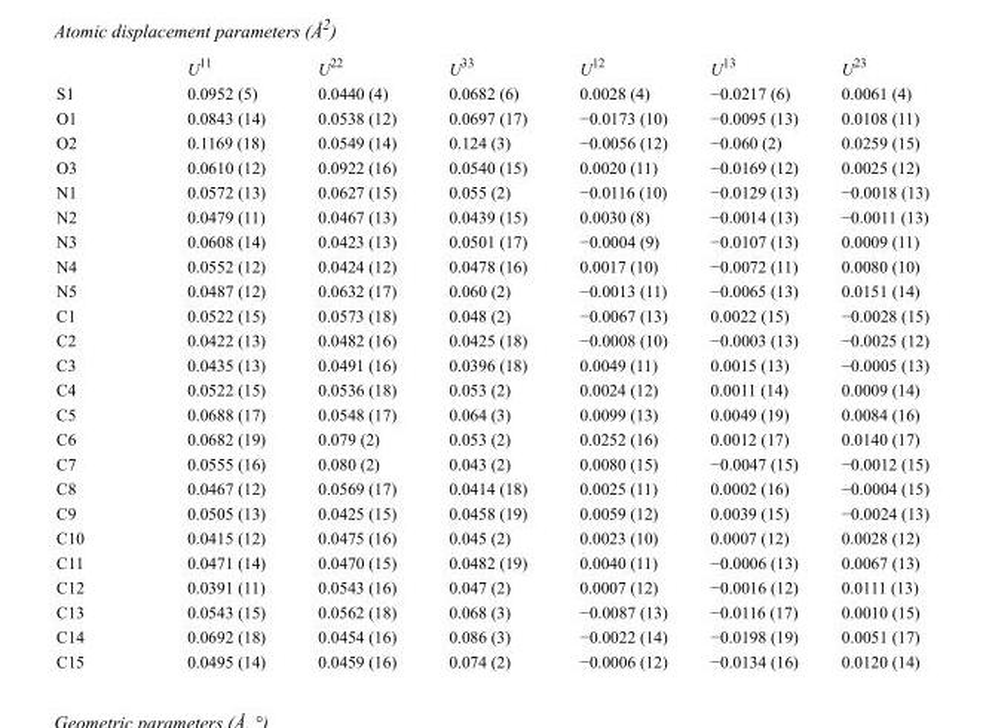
<table><thead><tr><td></td><td>U<sup>11</sup></td><td>U<sup>22</sup></td><td>U<sup>33</sup></td><td>U<sup>12</sup></td><td>U<sup>13</sup></td><td>U<sup>23</sup></td></tr></thead><tbody><tr><td>S1</td><td>0.0952 (5)</td><td>0.0440 (4)</td><td>0.0682 (6)</td><td>0.0028 (4)</td><td>−0.0217 (6)</td><td>0.0061 (4)</td></tr><tr><td>O1</td><td>0.0843 (14)</td><td>0.0538 (12)</td><td>0.0697 (17)</td><td>−0.0173 (10)</td><td>−0.0095 (13)</td><td>0.0108 (11)</td></tr><tr><td>O2</td><td>0.1169 (18)</td><td>0.0549 (14)</td><td>0.124 (3)</td><td>−0.0056 (12)</td><td>−0.060 (2)</td><td>0.0259 (15)</td></tr><tr><td>O3</td><td>0.0610 (12)</td><td>0.0922 (16)</td><td>0.0540 (15)</td><td>0.0020 (11)</td><td>−0.0169 (12)</td><td>0.0025 (12)</td></tr><tr><td>N1</td><td>0.0572 (13)</td><td>0.0627 (15)</td><td>0.055 (2)</td><td>−0.0116 (10)</td><td>−0.0129 (13)</td><td>−0.0018 (13)</td></tr><tr><td>N2</td><td>0.0479 (11)</td><td>0.0467 (13)</td><td>0.0439 (15)</td><td>0.0030 (8)</td><td>−0.0014 (13)</td><td>−0.0011 (13)</td></tr><tr><td>N3</td><td>0.0608 (14)</td><td>0.0423 (13)</td><td>0.0501 (17)</td><td>−0.0004 (9)</td><td>−0.0107 (13)</td><td>0.0009 (11)</td></tr><tr><td>N4</td><td>0.0552 (12)</td><td>0.0424 (12)</td><td>0.0478 (16)</td><td>0.0017 (10)</td><td>−0.0072 (11)</td><td>0.0080 (10)</td></tr><tr><td>N5</td><td>0.0487 (12)</td><td>0.0632 (17)</td><td>0.060 (2)</td><td>−0.0013 (11)</td><td>−0.0065 (13)</td><td>0.0151 (14)</td></tr><tr><td>C1</td><td>0.0522 (15)</td><td>0.0573 (18)</td><td>0.048 (2)</td><td>−0.0067 (13)</td><td>0.0022 (15)</td><td>−0.0028 (15)</td></tr><tr><td>C2</td><td>0.0422 (13)</td><td>0.0482 (16)</td><td>0.0425 (18)</td><td>−0.0008 (10)</td><td>−0.0003 (13)</td><td>−0.0025 (12)</td></tr><tr><td>C3</td><td>0.0435 (13)</td><td>0.0491 (16)</td><td>0.0396 (18)</td><td>0.0049 (11)</td><td>0.0015 (13)</td><td>−0.0005 (13)</td></tr><tr><td>C4</td><td>0.0522 (15)</td><td>0.0536 (18)</td><td>0.053 (2)</td><td>0.0024 (12)</td><td>0.0011 (14)</td><td>0.0009 (14)</td></tr><tr><td>C5</td><td>0.0688 (17)</td><td>0.0548 (17)</td><td>0.064 (3)</td><td>0.0099 (13)</td><td>0.0049 (19)</td><td>0.0084 (16)</td></tr><tr><td>C6</td><td>0.0682 (19)</td><td>0.079 (2)</td><td>0.053 (2)</td><td>0.0252 (16)</td><td>0.0012 (17)</td><td>0.0140 (17)</td></tr><tr><td>C7</td><td>0.0555 (16)</td><td>0.080 (2)</td><td>0.043 (2)</td><td>0.0080 (15)</td><td>−0.0047 (15)</td><td>−0.0012 (15)</td></tr><tr><td>C8</td><td>0.0467 (12)</td><td>0.0569 (17)</td><td>0.0414 (18)</td><td>0.0025 (11)</td><td>0.0002 (16)</td><td>−0.0004 (15)</td></tr><tr><td>C9</td><td>0.0505 (13)</td><td>0.0425 (15)</td><td>0.0458 (19)</td><td>0.0059 (12)</td><td>0.0039 (15)</td><td>−0.0024 (13)</td></tr><tr><td>C10</td><td>0.0415 (12)</td><td>0.0475 (16)</td><td>0.045 (2)</td><td>0.0023 (10)</td><td>0.0007 (12)</td><td>0.0028 (12)</td></tr><tr><td>C11</td><td>0.0471 (14)</td><td>0.0470 (15)</td><td>0.0482 (19)</td><td>0.0040 (11)</td><td>−0.0006 (13)</td><td>0.0067 (13)</td></tr><tr><td>C12</td><td>0.0391 (11)</td><td>0.0543 (16)</td><td>0.047 (2)</td><td>0.0007 (12)</td><td>−0.0016 (12)</td><td>0.0111 (13)</td></tr><tr><td>C13</td><td>0.0543 (15)</td><td>0.0562 (18)</td><td>0.068 (3)</td><td>−0.0087 (13)</td><td>−0.0116 (17)</td><td>0.0010 (15)</td></tr><tr><td>C14</td><td>0.0692 (18)</td><td>0.0454 (16)</td><td>0.086 (3)</td><td>−0.0022 (14)</td><td>−0.0198 (19)</td><td>0.0051 (17)</td></tr><tr><td>C15</td><td>0.0495 (14)</td><td>0.0459 (16)</td><td>0.074 (2)</td><td>−0.0006 (12)</td><td>−0.0134 (16)</td><td>0.0120 (14)</td></tr></tbody></table>